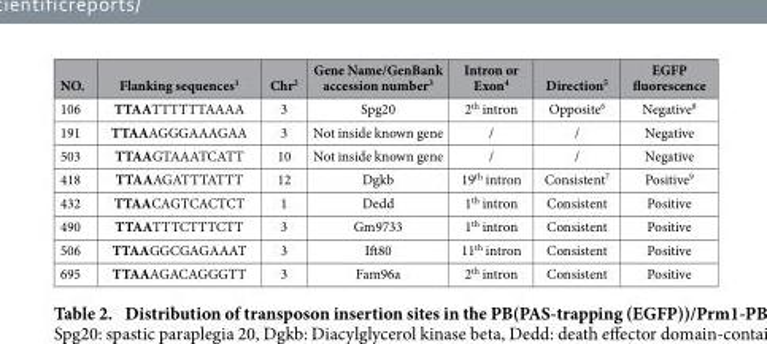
<table><thead><tr><td>NO.</td><td>Flanking sequences<sup>1</sup></td><td>Chr<sup>2</sup></td><td>Gene Name/GenBank accession number<sup>3</sup></td><td>Intron or Exon<sup>4</sup></td><td>Direction<sup>5</sup></td><td>EGFP fluorescence</td></tr></thead><tbody><tr><td>106</td><td>TTAATTTTTTAAAA</td><td>3</td><td>Spg20</td><td>2<sup>th</sup> intron</td><td>Opposite<sup>6</sup></td><td>Negative<sup>8</sup></td></tr><tr><td>191</td><td>TTAAAGGGAAAGAA</td><td>3</td><td>Not inside known gene</td><td>/</td><td>/</td><td>Negative</td></tr><tr><td>503</td><td>TTAAGTAAATCATT</td><td>10</td><td>Not inside known gene</td><td>/</td><td>/</td><td>Negative</td></tr><tr><td>418</td><td>TTAAAGATTTATTT</td><td>12</td><td>Dgkb</td><td>19<sup>th</sup> intron</td><td>Consistent<sup>7</sup></td><td>Positive<sup>9</sup></td></tr><tr><td>432</td><td>TTAACAGTCACTCT</td><td>1</td><td>Dedd</td><td>1<sup>th</sup> intron</td><td>Consistent</td><td>Positive</td></tr><tr><td>490</td><td>TTAATTTCTTTCTT</td><td>3</td><td>Gm9733</td><td>1<sup>th</sup> intron</td><td>Consistent</td><td>Positive</td></tr><tr><td>506</td><td>TTAAGGCGAGAAAT</td><td>3</td><td>Ift80</td><td>11<sup>th</sup> intron</td><td>Consistent</td><td>Positive</td></tr><tr><td>695</td><td>TTAAAGACAGGGTT</td><td>3</td><td>Fam96a</td><td>2<sup>th</sup> intron</td><td>Consistent</td><td>Positive</td></tr></tbody></table>